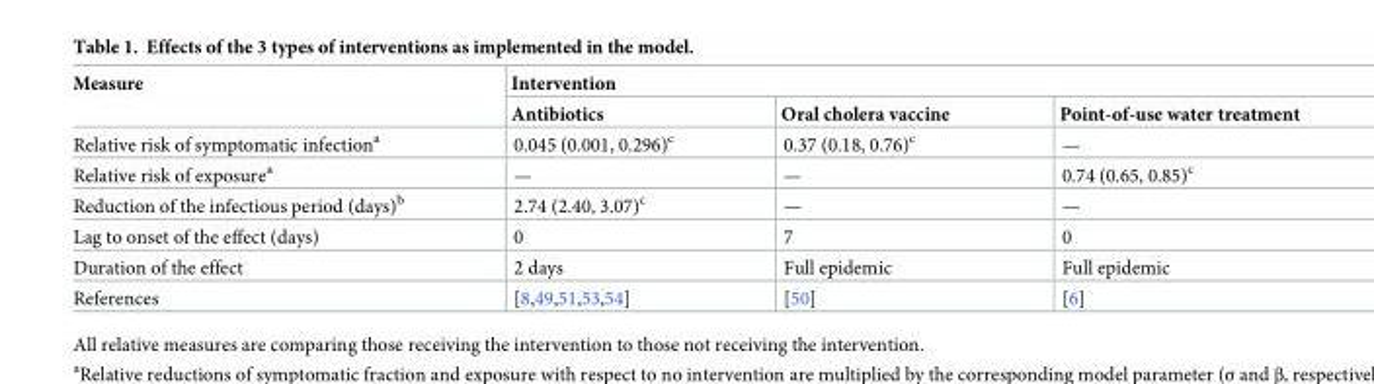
<table><thead><tr><td rowspan="2">Measure</td><td colspan="3">Intervention</td></tr><tr><td>Antibiotics</td><td>Oral cholera vaccine</td><td>Point-of-use water treatment</td></tr></thead><tbody><tr><td>Relative risk of symptomatic infection<sup>a</sup></td><td>0.045 (0.001, 0.296)<sup>c</sup></td><td>0.37 (0.18, 0.76)<sup>c</sup></td><td>—</td></tr><tr><td>Relative risk of exposure<sup>a</sup></td><td>—</td><td>—</td><td>0.74 (0.65, 0.85)<sup>c</sup></td></tr><tr><td>Reduction of the infectious period (days)<sup>b</sup></td><td>2.74 (2.40, 3.07)<sup>c</sup></td><td>—</td><td>—</td></tr><tr><td>Lag to onset of the effect (days)</td><td>0</td><td>7</td><td>0</td></tr><tr><td>Duration of the effect</td><td>2 days</td><td>Full epidemic</td><td>Full epidemic</td></tr><tr><td>References</td><td>[8,49,51,53,54]</td><td>[50]</td><td>[6]</td></tr></tbody></table>